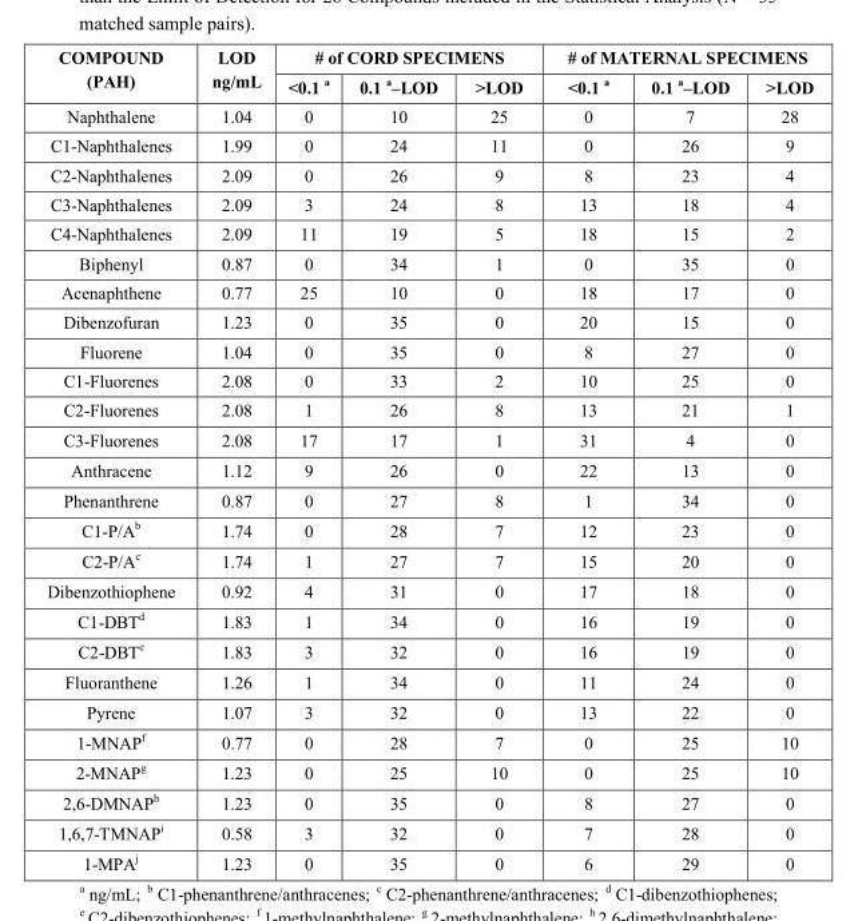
<table><thead><tr><td rowspan="2">COMPOUND (PAH)</td><td rowspan="2">LOD ng/mL</td><td colspan="3"># of CORD SPECIMENS</td><td colspan="3"># of MATERNAL SPECIMENS</td></tr><tr><td>&lt;0.1 <sup>a</sup></td><td>0.1 <sup>a</sup>–LOD</td><td>&gt;LOD</td><td>&lt;0.1 <sup>a</sup></td><td>0.1 <sup>a</sup>–LOD</td><td>&gt;LOD</td></tr></thead><tbody><tr><td>Naphthalene</td><td>1.04</td><td>0</td><td>10</td><td>25</td><td>0</td><td>7</td><td>28</td></tr><tr><td>C1-Naphthalenes</td><td>1.99</td><td>0</td><td>24</td><td>11</td><td>0</td><td>26</td><td>9</td></tr><tr><td>C2-Naphthalenes</td><td>2.09</td><td>0</td><td>26</td><td>9</td><td>8</td><td>23</td><td>4</td></tr><tr><td>C3-Naphthalenes</td><td>2.09</td><td>3</td><td>24</td><td>8</td><td>13</td><td>18</td><td>4</td></tr><tr><td>C4-Naphthalenes</td><td>2.09</td><td>11</td><td>19</td><td>5</td><td>18</td><td>15</td><td>2</td></tr><tr><td>Biphenyl</td><td>0.87</td><td>0</td><td>34</td><td>1</td><td>0</td><td>35</td><td>0</td></tr><tr><td>Acenaphthene</td><td>0.77</td><td>25</td><td>10</td><td>0</td><td>18</td><td>17</td><td>0</td></tr><tr><td>Dibenzofuran</td><td>1.23</td><td>0</td><td>35</td><td>0</td><td>20</td><td>15</td><td>0</td></tr><tr><td>Fluorene</td><td>1.04</td><td>0</td><td>35</td><td>0</td><td>8</td><td>27</td><td>0</td></tr><tr><td>C1-Fluorenes</td><td>2.08</td><td>0</td><td>33</td><td>2</td><td>10</td><td>25</td><td>0</td></tr><tr><td>C2-Fluorenes</td><td>2.08</td><td>1</td><td>26</td><td>8</td><td>13</td><td>21</td><td>1</td></tr><tr><td>C3-Fluorenes</td><td>2.08</td><td>17</td><td>17</td><td>1</td><td>31</td><td>4</td><td>0</td></tr><tr><td>Anthracene</td><td>1.12</td><td>9</td><td>26</td><td>0</td><td>22</td><td>13</td><td>0</td></tr><tr><td>Phenanthrene</td><td>0.87</td><td>0</td><td>27</td><td>8</td><td>1</td><td>34</td><td>0</td></tr><tr><td>C1-P/A<sup>b</sup></td><td>1.74</td><td>0</td><td>28</td><td>7</td><td>12</td><td>23</td><td>0</td></tr><tr><td>C2-P/A<sup>c</sup></td><td>1.74</td><td>1</td><td>27</td><td>7</td><td>15</td><td>20</td><td>0</td></tr><tr><td>Dibenzothiophene</td><td>0.92</td><td>4</td><td>31</td><td>0</td><td>17</td><td>18</td><td>0</td></tr><tr><td>C1-DBT<sup>d</sup></td><td>1.83</td><td>1</td><td>34</td><td>0</td><td>16</td><td>19</td><td>0</td></tr><tr><td>C2-DBT<sup>e</sup></td><td>1.83</td><td>3</td><td>32</td><td>0</td><td>16</td><td>19</td><td>0</td></tr><tr><td>Fluoranthene</td><td>1.26</td><td>1</td><td>34</td><td>0</td><td>11</td><td>24</td><td>0</td></tr><tr><td>Pyrene</td><td>1.07</td><td>3</td><td>32</td><td>0</td><td>13</td><td>22</td><td>0</td></tr><tr><td>1-MNAP<sup>f</sup></td><td>0.77</td><td>0</td><td>28</td><td>7</td><td>0</td><td>25</td><td>10</td></tr><tr><td>2-MNAP<sup>g</sup></td><td>1.23</td><td>0</td><td>25</td><td>10</td><td>0</td><td>25</td><td>10</td></tr><tr><td>2,6-DMNAP<sup>h</sup></td><td>1.23</td><td>0</td><td>35</td><td>0</td><td>8</td><td>27</td><td>0</td></tr><tr><td>1,6,7-TMNAP<sup>i</sup></td><td>0.58</td><td>3</td><td>32</td><td>0</td><td>7</td><td>28</td><td>0</td></tr><tr><td>1-MPA<sup>j</sup></td><td>1.23</td><td>0</td><td>35</td><td>0</td><td>6</td><td>29</td><td>0</td></tr></tbody></table>